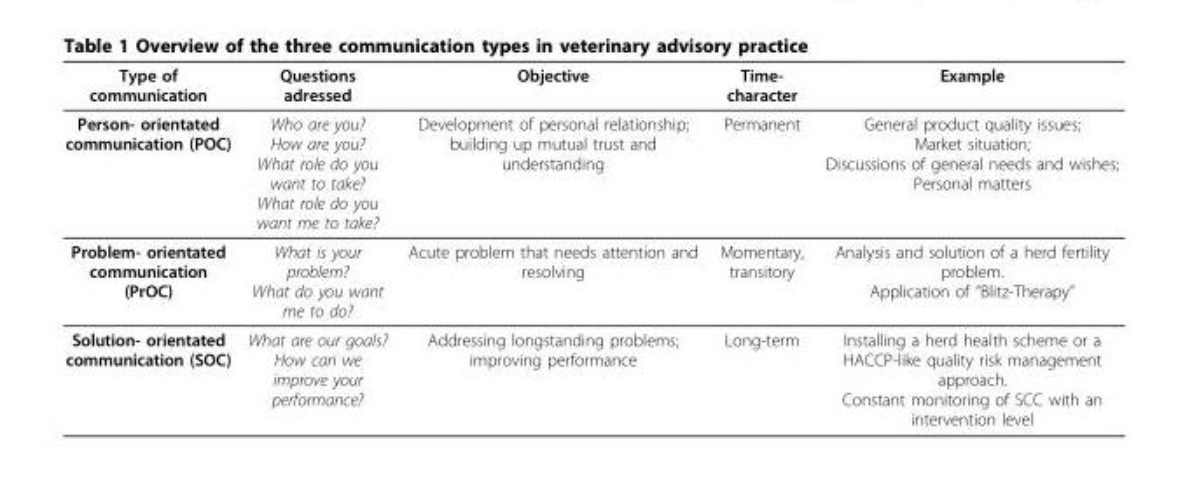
<table><thead><tr><td>Type of communication</td><td>Questions adressed</td><td>Objective</td><td>Time- character</td><td>Example</td></tr></thead><tbody><tr><td>Person- orientated communication (POC)</td><td>Who are you? How are you? What role do you want to take? What role do you want me to take?</td><td>Development of personal relationship; building up mutual trust and understanding</td><td>Permanent</td><td>General product quality issues; Market situation; Discussions of general needs and wishes; Personal matters</td></tr><tr><td>Problem- orientated communication (PrOC)</td><td>What is your problem? What do you want me to do?</td><td>Acute problem that needs attention and resolving</td><td>Momentary, transitory</td><td>Analysis and solution of a herd fertility problem. Application of “Blitz-Therapy”</td></tr><tr><td>Solution- orientated communication (SOC)</td><td>What are our goals? How can we improve your performance?</td><td>Addressing longstanding problems; improving performance</td><td>Long-term</td><td>Installing a herd health scheme or a HACCP-like quality risk management approach. Constant monitoring of SCC with an intervention level</td></tr></tbody></table>